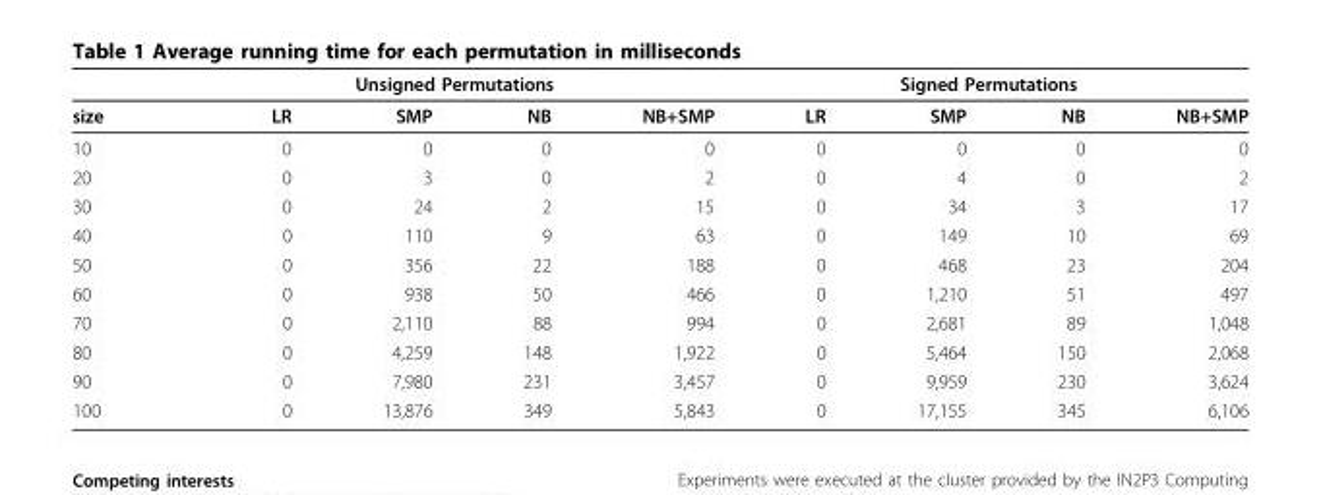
<table><thead><tr><td rowspan="2">size</td><td colspan="4">Unsigned Permutations</td><td colspan="4">Signed Permutations</td></tr><tr><td>LR</td><td>SMP</td><td>NB</td><td>NB+SMP</td><td>LR</td><td>SMP</td><td>NB</td><td>NB+SMP</td></tr></thead><tbody><tr><td>10</td><td>0</td><td>0</td><td>0</td><td>0</td><td>0</td><td>0</td><td>0</td><td>0</td></tr><tr><td>20</td><td>0</td><td>3</td><td>0</td><td>2</td><td>0</td><td>4</td><td>0</td><td>2</td></tr><tr><td>30</td><td>0</td><td>24</td><td>2</td><td>15</td><td>0</td><td>34</td><td>3</td><td>17</td></tr><tr><td>40</td><td>0</td><td>110</td><td>9</td><td>63</td><td>0</td><td>149</td><td>10</td><td>69</td></tr><tr><td>50</td><td>0</td><td>356</td><td>22</td><td>188</td><td>0</td><td>468</td><td>23</td><td>204</td></tr><tr><td>60</td><td>0</td><td>938</td><td>50</td><td>466</td><td>0</td><td>1,210</td><td>51</td><td>497</td></tr><tr><td>70</td><td>0</td><td>2,110</td><td>88</td><td>994</td><td>0</td><td>2,681</td><td>89</td><td>1,048</td></tr><tr><td>80</td><td>0</td><td>4,259</td><td>148</td><td>1,922</td><td>0</td><td>5,464</td><td>150</td><td>2,068</td></tr><tr><td>90</td><td>0</td><td>7,980</td><td>231</td><td>3,457</td><td>0</td><td>9,959</td><td>230</td><td>3,624</td></tr><tr><td>100</td><td>0</td><td>13,876</td><td>349</td><td>5,843</td><td>0</td><td>17,155</td><td>345</td><td>6,106</td></tr></tbody></table>